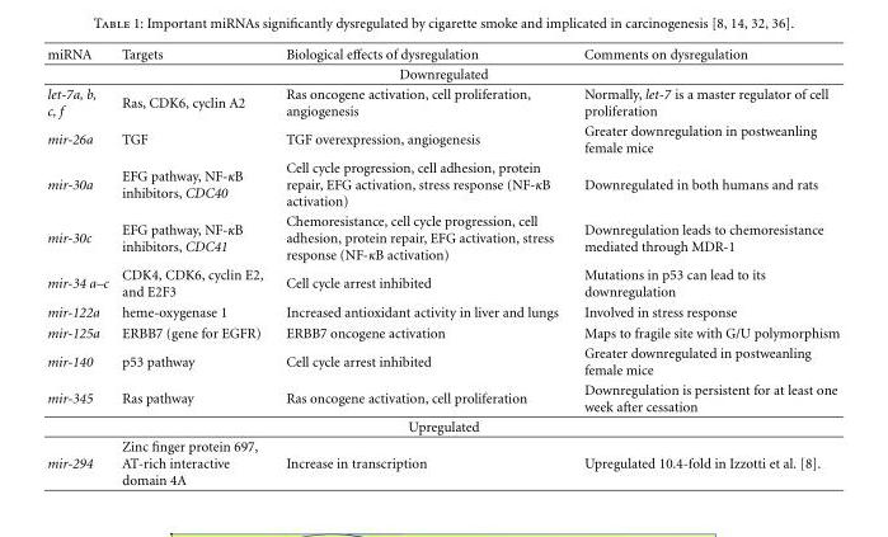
<table><thead><tr><td>miRNA</td><td>Targets</td><td>Biological effects of dysregulation</td><td>Comments on dysregulation</td></tr></thead><tbody><tr><td colspan="4">Downregulated</td></tr><tr><td>let-7a, b, c, f</td><td>Ras, CDK6, cyclin A2</td><td>Ras oncogene activation, cell proliferation, angiogenesis</td><td>Normally, let-7 is a master regulator of cell proliferation</td></tr><tr><td>mir-26a</td><td>TGF</td><td>TGF overexpression, angiogenesis</td><td>Greater downregulation in postweanling female mice</td></tr><tr><td>mir-30a</td><td>EFG pathway, NF-κB inhibitors, CDC40</td><td>Cell cycle progression, cell adhesion, protein repair, EFG activation, stress response (NF-κB activation)</td><td>Downregulated in both humans and rats</td></tr><tr><td>mir-30c</td><td>EFG pathway, NF-κB inhibitors, CDC41</td><td>Chemoresistance, cell cycle progression, cell adhesion, protein repair, EFG activation, stress response (NF-κB activation)</td><td>Downregulation leads to chemoresistance mediated through MDR-1</td></tr><tr><td>mir-34 a–c</td><td>CDK4, CDK6, cyclin E2, and E2F3</td><td>Cell cycle arrest inhibited</td><td>Mutations in p53 can lead to its downregulation</td></tr><tr><td>mir-122a</td><td>heme-oxygenase 1</td><td>Increased antioxidant activity in liver and lungs</td><td>Involved in stress response</td></tr><tr><td>mir-125a</td><td>ERBB7 (gene for EGFR)</td><td>ERBB7 oncogene activation</td><td>Maps to fragile site with G/U polymorphism</td></tr><tr><td>mir-140</td><td>p53 pathway</td><td>Cell cycle arrest inhibited</td><td>Greater downregulated in postweanling female mice</td></tr><tr><td>mir-345</td><td>Ras pathway</td><td>Ras oncogene activation, cell proliferation</td><td>Downregulation is persistent for at least one week after cessation</td></tr><tr><td colspan="4">Upregulated</td></tr><tr><td>mir-294</td><td>Zinc finger protein 697, AT-rich interactive domain 4A</td><td>Increase in transcription</td><td>Upregulated 10.4-fold in Izzotti et al. [8].</td></tr></tbody></table>